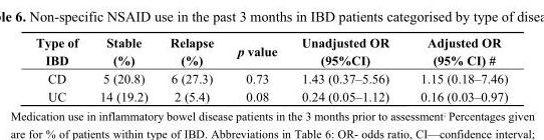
<table><thead><tr><td>Type of IBD</td><td>Stable (%)</td><td>Relapse (%)</td><td>p value</td><td>Unadjusted OR (95%CI)</td><td>Adjusted OR (95% CI) #</td></tr></thead><tbody><tr><td>CD</td><td>5 (20.8)</td><td>6 (27.3)</td><td>0.73</td><td>1.43 (0.37–5.56)</td><td>1.15 (0.18–7.46)</td></tr><tr><td>UC</td><td>14 (19.2)</td><td>2 (5.4)</td><td>0.08</td><td>0.24 (0.05–1.12)</td><td>0.16 (0.03–0.97)</td></tr></tbody></table>